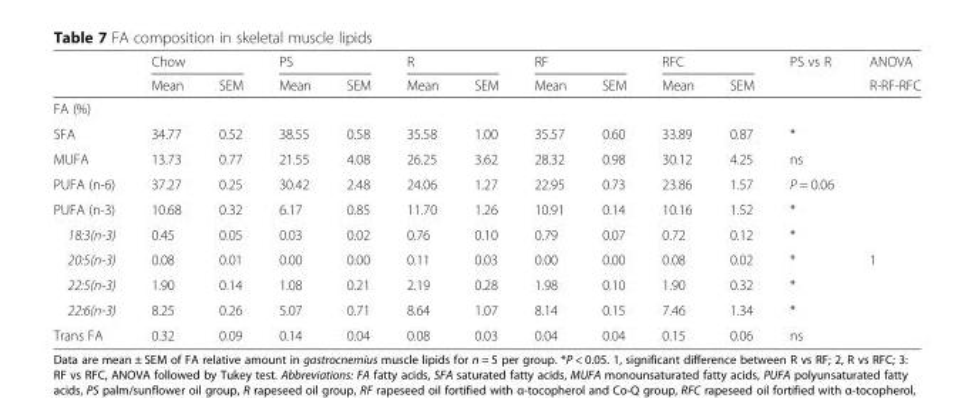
<table><thead><tr><td rowspan="2"></td><td colspan="2">Chow</td><td colspan="2">PS</td><td colspan="2">R</td><td colspan="2">RF</td><td colspan="2">RFC</td><td rowspan="2">PS vs R</td><td rowspan="2">ANOVA R-RF-RFC</td></tr><tr><td>Mean</td><td>SEM</td><td>Mean</td><td>SEM</td><td>Mean</td><td>SEM</td><td>Mean</td><td>SEM</td><td>Mean</td><td>SEM</td></tr></thead><tbody><tr><td colspan="13">FA (%)</td></tr><tr><td>SFA</td><td>34.77</td><td>0.52</td><td>38.55</td><td>0.58</td><td>35.58</td><td>1.00</td><td>35.57</td><td>0.60</td><td>33.89</td><td>0.87</td><td>*</td><td></td></tr><tr><td>MUFA</td><td>13.73</td><td>0.77</td><td>21.55</td><td>4.08</td><td>26.25</td><td>3.62</td><td>28.32</td><td>0.98</td><td>30.12</td><td>4.25</td><td>ns</td><td></td></tr><tr><td>PUFA (n-6)</td><td>37.27</td><td>0.25</td><td>30.42</td><td>2.48</td><td>24.06</td><td>1.27</td><td>22.95</td><td>0.73</td><td>23.86</td><td>1.57</td><td>P = 0.06</td><td></td></tr><tr><td>PUFA (n-3)</td><td>10.68</td><td>0.32</td><td>6.17</td><td>0.85</td><td>11.70</td><td>1.26</td><td>10.91</td><td>0.14</td><td>10.16</td><td>1.52</td><td>*</td><td></td></tr><tr><td>18:3(n-3)</td><td>0.45</td><td>0.05</td><td>0.03</td><td>0.02</td><td>0.76</td><td>0.10</td><td>0.79</td><td>0.07</td><td>0.72</td><td>0.12</td><td>*</td><td></td></tr><tr><td>20:5(n-3)</td><td>0.08</td><td>0.01</td><td>0.00</td><td>0.00</td><td>0.11</td><td>0.03</td><td>0.00</td><td>0.00</td><td>0.08</td><td>0.02</td><td>*</td><td>1</td></tr><tr><td>22:5(n-3)</td><td>1.90</td><td>0.14</td><td>1.08</td><td>0.21</td><td>2.19</td><td>0.28</td><td>1.98</td><td>0.10</td><td>1.90</td><td>0.32</td><td>*</td><td></td></tr><tr><td>22:6(n-3)</td><td>8.25</td><td>0.26</td><td>5.07</td><td>0.71</td><td>8.64</td><td>1.07</td><td>8.14</td><td>0.15</td><td>7.46</td><td>1.34</td><td>*</td><td></td></tr><tr><td>Trans FA</td><td>0.32</td><td>0.09</td><td>0.14</td><td>0.04</td><td>0.08</td><td>0.03</td><td>0.04</td><td>0.04</td><td>0.15</td><td>0.06</td><td>ns</td><td></td></tr></tbody></table>